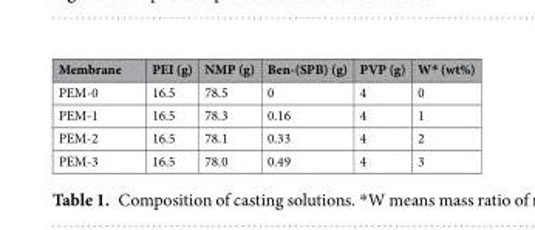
<table><thead><tr><td>Membrane</td><td>PEI (g)</td><td>NMP (g)</td><td>Ben-(SPB) (g)</td><td>PVP (g)</td><td>W* (wt%)</td></tr></thead><tbody><tr><td>PEM-0</td><td>16.5</td><td>78.5</td><td>0</td><td>4</td><td>0</td></tr><tr><td>PEM-1</td><td>16.5</td><td>78.3</td><td>0.16</td><td>4</td><td>1</td></tr><tr><td>PEM-2</td><td>16.5</td><td>78.1</td><td>0.33</td><td>4</td><td>2</td></tr><tr><td>PEM-3</td><td>16.5</td><td>78.0</td><td>0.49</td><td>4</td><td>3</td></tr></tbody></table>